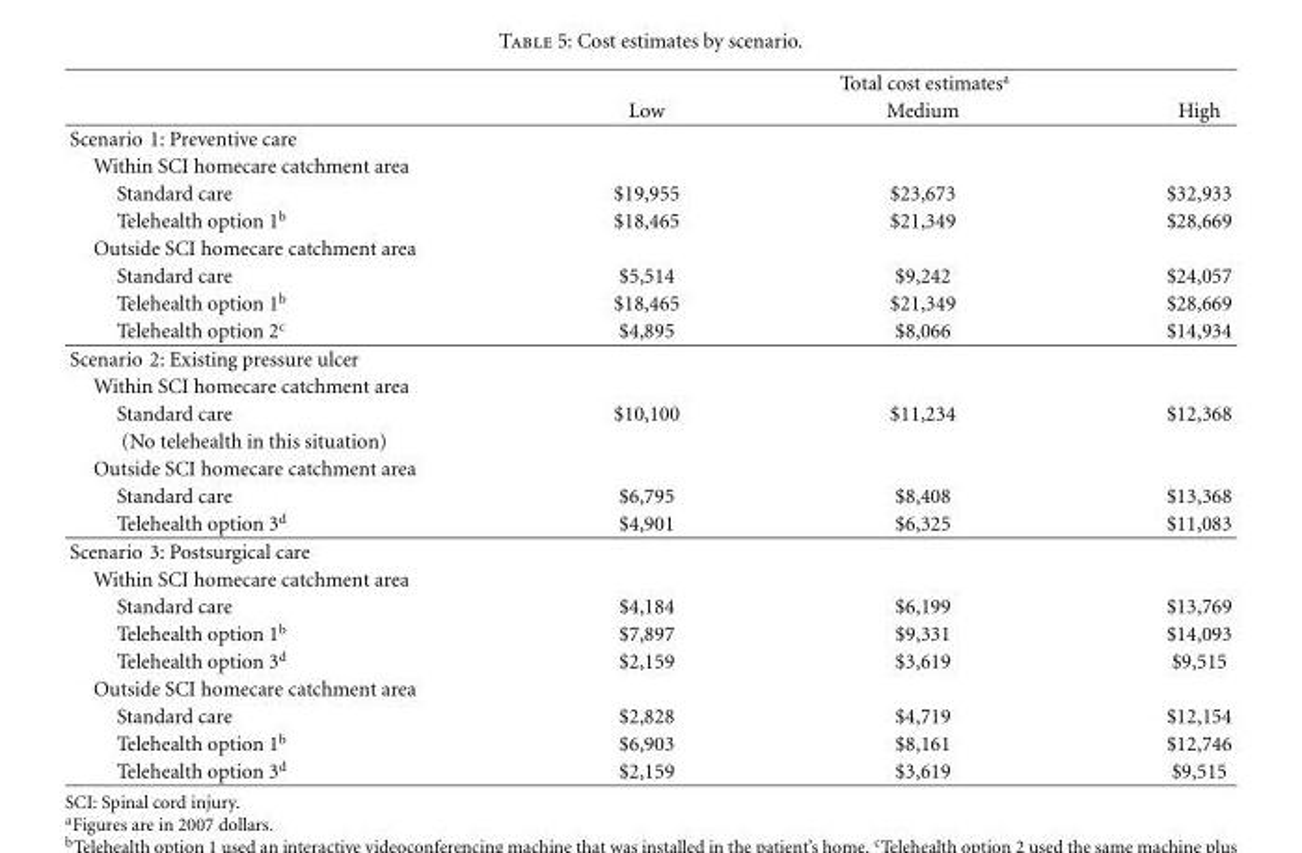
<table><thead><tr><td rowspan="2"></td><td colspan="3">Total cost estimates<sup>a</sup></td></tr><tr><td>Low</td><td>Medium</td><td>High</td></tr></thead><tbody><tr><td colspan="4">Scenario 1: Preventive care</td></tr><tr><td colspan="4">Within SCI homecare catchment area</td></tr><tr><td>Standard care</td><td>$19,955</td><td>$23,673</td><td>$32,933</td></tr><tr><td>Telehealth option 1<sup>b</sup></td><td>$18,465</td><td>$21,349</td><td>$28,669</td></tr><tr><td colspan="4">Outside SCI homecare catchment area</td></tr><tr><td>Standard care</td><td>$5,514</td><td>$9,242</td><td>$24,057</td></tr><tr><td>Telehealth option 1<sup>b</sup></td><td>$18,465</td><td>$21,349</td><td>$28,669</td></tr><tr><td>Telehealth option 2<sup>c</sup></td><td>$4,895</td><td>$8,066</td><td>$14,934</td></tr><tr><td colspan="4">Scenario 2: Existing pressure ulcer</td></tr><tr><td colspan="4">Within SCI homecare catchment area</td></tr><tr><td>Standard care</td><td>$10,100</td><td>$11,234</td><td>$12,368</td></tr><tr><td colspan="4">(No telehealth in this situation)</td></tr><tr><td colspan="4">Outside SCI homecare catchment area</td></tr><tr><td>Standard care</td><td>$6,795</td><td>$8,408</td><td>$13,368</td></tr><tr><td>Telehealth option 3<sup>d</sup></td><td>$4,901</td><td>$6,325</td><td>$11,083</td></tr><tr><td colspan="4">Scenario 3: Postsurgical care</td></tr><tr><td colspan="4">Within SCI homecare catchment area</td></tr><tr><td>Standard care</td><td>$4,184</td><td>$6,199</td><td>$13,769</td></tr><tr><td>Telehealth option 1<sup>b</sup></td><td>$7,897</td><td>$9,331</td><td>$14,093</td></tr><tr><td>Telehealth option 3<sup>d</sup></td><td>$2,159</td><td>$3,619</td><td>$9,515</td></tr><tr><td colspan="4">Outside SCI homecare catchment area</td></tr><tr><td>Standard care</td><td>$2,828</td><td>$4,719</td><td>$12,154</td></tr><tr><td>Telehealth option 1<sup>b</sup></td><td>$6,903</td><td>$8,161</td><td>$12,746</td></tr><tr><td>Telehealth option 3<sup>d</sup></td><td>$2,159</td><td>$3,619</td><td>$9,515</td></tr></tbody></table>